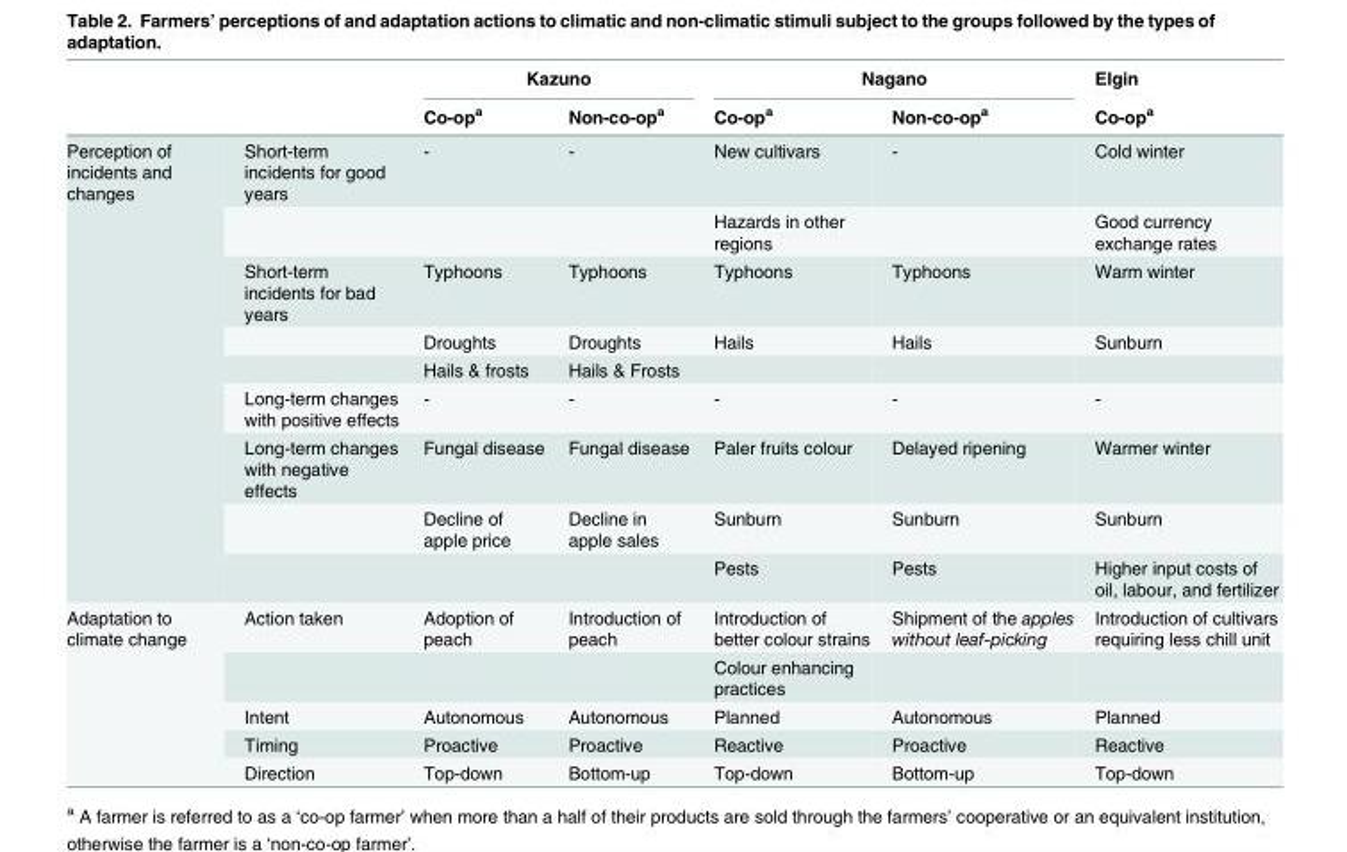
<table><thead><tr><td rowspan="2"></td><td rowspan="2"></td><td colspan="2">Kazuno</td><td colspan="2">Nagano</td><td rowspan="2">Elgin Co-op<sup>a</sup></td></tr><tr><td>Co-op<sup>a</sup></td><td>Non-co-op<sup>a</sup></td><td>Co-op<sup>a</sup></td><td>Non-co-op<sup>a</sup></td></tr></thead><tbody><tr><td rowspan="9">Perception of incidents and changes</td><td>Short-term incidents for good years</td><td>-</td><td>-</td><td>New cultivars</td><td>-</td><td>Cold winter</td></tr><tr><td></td><td></td><td></td><td>Hazards in other regions</td><td></td><td>Good currency exchange rates</td></tr><tr><td>Short-term incidents for bad years</td><td>Typhoons</td><td>Typhoons</td><td>Typhoons</td><td>Typhoons</td><td>Warm winter</td></tr><tr><td></td><td>Droughts</td><td>Droughts</td><td>Hails</td><td>Hails</td><td>Sunburn</td></tr><tr><td></td><td>Hails &amp; frosts</td><td>Hails &amp; Frosts</td><td></td><td></td><td></td></tr><tr><td>Long-term changes with positive effects</td><td>-</td><td>-</td><td>-</td><td>-</td><td>-</td></tr><tr><td>Long-term changes with negative effects</td><td>Fungal disease</td><td>Fungal disease</td><td>Paler fruits colour</td><td>Delayed ripening</td><td>Warmer winter</td></tr><tr><td></td><td>Decline of apple price</td><td>Decline in apple sales</td><td>Sunburn</td><td>Sunburn</td><td>Sunburn</td></tr><tr><td></td><td></td><td></td><td>Pests</td><td>Pests</td><td>Higher input costs of oil, labour, and fertilizer</td></tr><tr><td rowspan="5">Adaptation to climate change</td><td>Action taken</td><td>Adoption of peach</td><td>Introduction of peach</td><td>Introduction of better colour strains</td><td>Shipment of the apples without leaf-picking</td><td>Introduction of cultivars requiring less chill unit</td></tr><tr><td></td><td></td><td></td><td>Colour enhancing practices</td><td></td><td></td></tr><tr><td>Intent</td><td>Autonomous</td><td>Autonomous</td><td>Planned</td><td>Autonomous</td><td>Planned</td></tr><tr><td>Timing</td><td>Proactive</td><td>Proactive</td><td>Reactive</td><td>Proactive</td><td>Reactive</td></tr><tr><td>Direction</td><td>Top-down</td><td>Bottom-up</td><td>Top-down</td><td>Bottom-up</td><td>Top-down</td></tr></tbody></table>